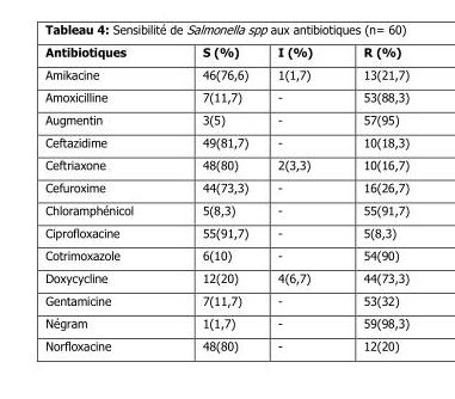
<table><thead><tr><td>Antibiotiques</td><td>S (%)</td><td>I (%)</td><td>R (%)</td></tr></thead><tbody><tr><td>Amikacine</td><td>46(76,6)</td><td>1(1,7)</td><td>13(21,7)</td></tr><tr><td>Amoxicilline</td><td>7(11,7)</td><td>-</td><td>53(88,3)</td></tr><tr><td>Augmentin</td><td>3(5)</td><td>-</td><td>57(95)</td></tr><tr><td>Ceftazidime</td><td>49(81,7)</td><td>-</td><td>10(18,3)</td></tr><tr><td>Ceftriaxone</td><td>48(80)</td><td>2(3,3)</td><td>10(16,7)</td></tr><tr><td>Cefuroxime</td><td>44(73,3)</td><td>-</td><td>16(26,7)</td></tr><tr><td>Chloramphénicol</td><td>5(8,3)</td><td>-</td><td>55(91,7)</td></tr><tr><td>Ciprofloxacine</td><td>55(91,7)</td><td>-</td><td>5(8,3)</td></tr><tr><td>Cotrimoxazole</td><td>6(10)</td><td>-</td><td>54(90)</td></tr><tr><td>Doxycycline</td><td>12(20)</td><td>4(6,7)</td><td>44(73,3)</td></tr><tr><td>Gentamicine</td><td>7(11,7)</td><td>-</td><td>53(32)</td></tr><tr><td>Négram</td><td>1(1,7)</td><td>-</td><td>59(98,3)</td></tr><tr><td>Norfloxacine</td><td>48(80)</td><td>-</td><td>12(20)</td></tr></tbody></table>